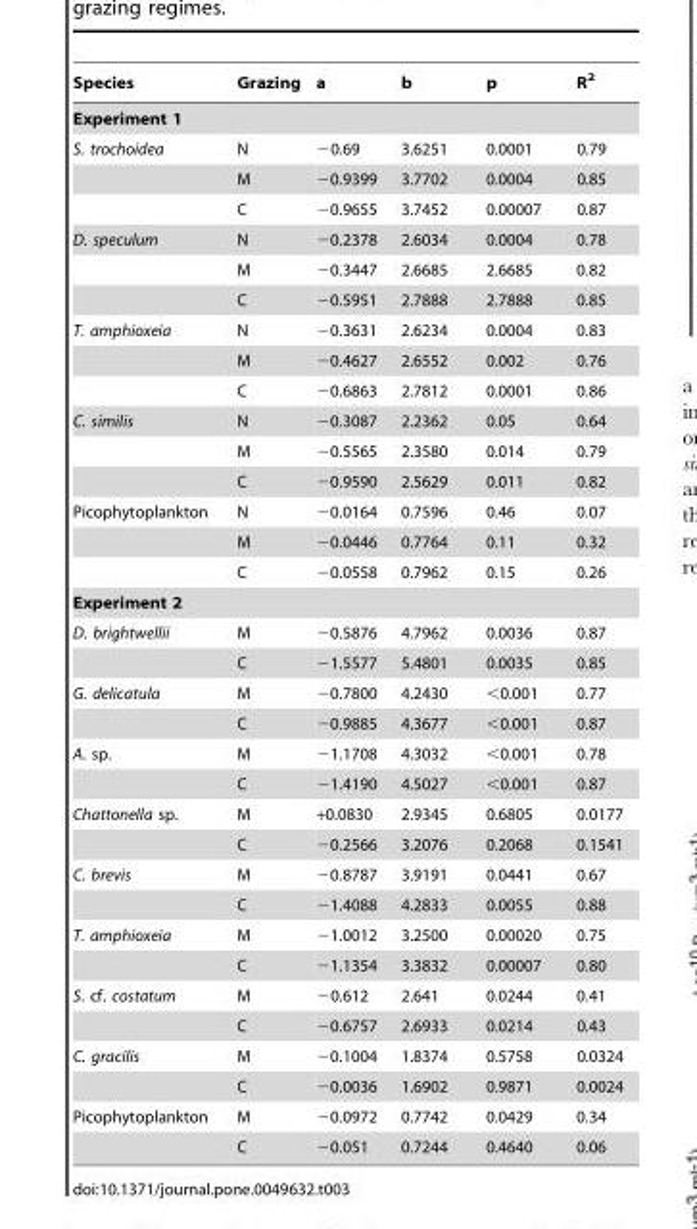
<table><thead><tr><td>Species</td><td>Grazing</td><td>a</td><td>b</td><td>p</td><td>R<sup>2</sup></td></tr></thead><tbody><tr><td colspan="6">Experiment 1</td></tr><tr><td rowspan="3">S. trochoidea</td><td>N</td><td>−0.69</td><td>3.6251</td><td>0.0001</td><td>0.79</td></tr><tr><td>M</td><td>−0.9399</td><td>3.7702</td><td>0.0004</td><td>0.85</td></tr><tr><td>C</td><td>−0.9655</td><td>3.7452</td><td>0.00007</td><td>0.87</td></tr><tr><td rowspan="3">D. speculum</td><td>N</td><td>−0.2378</td><td>2.6034</td><td>0.0004</td><td>0.78</td></tr><tr><td>M</td><td>−0.3447</td><td>2.6685</td><td>2.6685</td><td>0.82</td></tr><tr><td>C</td><td>−0.5951</td><td>2.7888</td><td>2.7888</td><td>0.85</td></tr><tr><td rowspan="3">T. amphioxeia</td><td>N</td><td>−0.3631</td><td>2.6234</td><td>0.0004</td><td>0.83</td></tr><tr><td>M</td><td>−0.4627</td><td>2.6552</td><td>0.002</td><td>0.76</td></tr><tr><td>C</td><td>−0.6863</td><td>2.7812</td><td>0.0001</td><td>0.86</td></tr><tr><td rowspan="3">C. similis</td><td>N</td><td>−0.3087</td><td>2.2362</td><td>0.05</td><td>0.64</td></tr><tr><td>M</td><td>−0.5565</td><td>2.3580</td><td>0.014</td><td>0.79</td></tr><tr><td>C</td><td>−0.9590</td><td>2.5629</td><td>0.011</td><td>0.82</td></tr><tr><td rowspan="3">Picophytoplankton</td><td>N</td><td>−0.0164</td><td>0.7596</td><td>0.46</td><td>0.07</td></tr><tr><td>M</td><td>−0.0446</td><td>0.7764</td><td>0.11</td><td>0.32</td></tr><tr><td>C</td><td>−0.0558</td><td>0.7962</td><td>0.15</td><td>0.26</td></tr><tr><td colspan="6">Experiment 2</td></tr><tr><td rowspan="2">D. brightwellii</td><td>M</td><td>−0.5876</td><td>4.7962</td><td>0.0036</td><td>0.87</td></tr><tr><td>C</td><td>−1.5577</td><td>5.4801</td><td>0.0035</td><td>0.85</td></tr><tr><td rowspan="2">G. delicatula</td><td>M</td><td>−0.7800</td><td>4.2430</td><td>&lt;0.001</td><td>0.77</td></tr><tr><td>C</td><td>−0.9885</td><td>4.3677</td><td>&lt;0.001</td><td>0.87</td></tr><tr><td rowspan="2">A. sp.</td><td>M</td><td>−1.1708</td><td>4.3032</td><td>&lt;0.001</td><td>0.78</td></tr><tr><td>C</td><td>−1.4190</td><td>4.5027</td><td>&lt;0.001</td><td>0.87</td></tr><tr><td rowspan="2">Chattonella sp.</td><td>M</td><td>+0.0830</td><td>2.9345</td><td>0.6805</td><td>0.0177</td></tr><tr><td>C</td><td>−0.2566</td><td>3.2076</td><td>0.2068</td><td>0.1541</td></tr><tr><td rowspan="2">C. brevis</td><td>M</td><td>−0.8787</td><td>3.9191</td><td>0.0441</td><td>0.67</td></tr><tr><td>C</td><td>−1.4088</td><td>4.2833</td><td>0.0055</td><td>0.88</td></tr><tr><td rowspan="2">T. amphioxeia</td><td>M</td><td>−1.0012</td><td>3.2500</td><td>0.00020</td><td>0.75</td></tr><tr><td>C</td><td>−1.1354</td><td>3.3832</td><td>0.00007</td><td>0.80</td></tr><tr><td rowspan="2">S. cf. costatum</td><td>M</td><td>−0.612</td><td>2.641</td><td>0.0244</td><td>0.41</td></tr><tr><td>C</td><td>−0.6757</td><td>2.6933</td><td>0.0214</td><td>0.43</td></tr><tr><td rowspan="2">C. gracilis</td><td>M</td><td>−0.1004</td><td>1.8374</td><td>0.5758</td><td>0.0324</td></tr><tr><td>C</td><td>−0.0036</td><td>1.6902</td><td>0.9871</td><td>0.0024</td></tr><tr><td rowspan="2">Picophytoplankton</td><td>M</td><td>−0.0972</td><td>0.7742</td><td>0.0429</td><td>0.34</td></tr><tr><td>C</td><td>−0.051</td><td>0.7244</td><td>0.4640</td><td>0.06</td></tr></tbody></table>